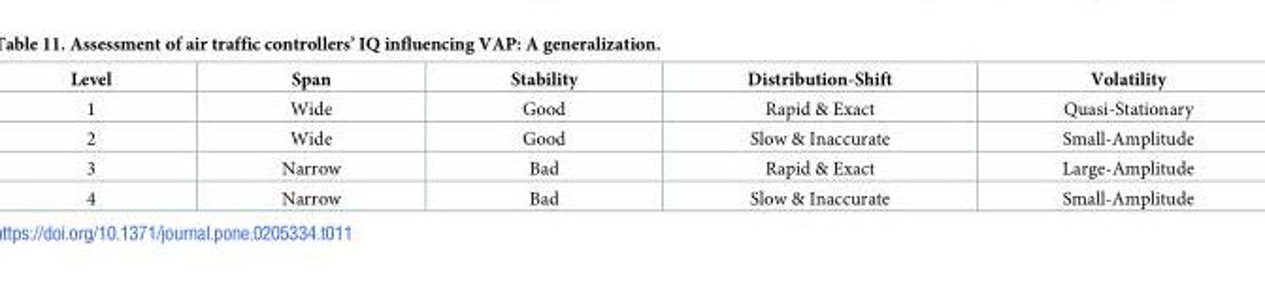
<table><thead><tr><td>Level</td><td>Span</td><td>Stability</td><td>Distribution-Shift</td><td>Volatility</td></tr></thead><tbody><tr><td>1</td><td>Wide</td><td>Good</td><td>Rapid &amp; Exact</td><td>Quasi-Stationary</td></tr><tr><td>2</td><td>Wide</td><td>Good</td><td>Slow &amp; Inaccurate</td><td>Small-Amplitude</td></tr><tr><td>3</td><td>Narrow</td><td>Bad</td><td>Rapid &amp; Exact</td><td>Large-Amplitude</td></tr><tr><td>4</td><td>Narrow</td><td>Bad</td><td>Slow &amp; Inaccurate</td><td>Small-Amplitude</td></tr></tbody></table>